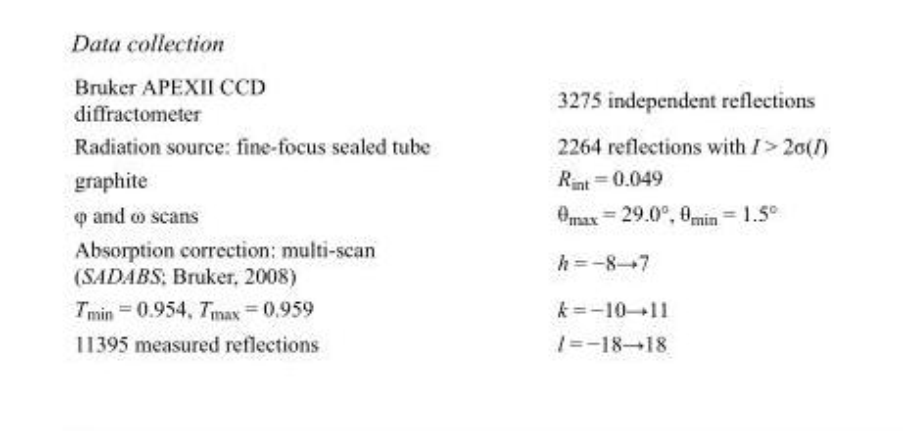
<table><tbody><tr><td>Bruker APEXII CCD diffractometer</td><td>3275 independent reflections</td></tr><tr><td>Radiation source: fine-focus sealed tube</td><td>2264 reflections with I &gt; 2σ(I)</td></tr><tr><td>graphite</td><td>R<sub>int</sub> = 0.049</td></tr><tr><td>φ and ω scans</td><td>θ<sub>max</sub> = 29.0°, θ<sub>min</sub> = 1.5°</td></tr><tr><td>Absorption correction: multi-scan (SADABS; Bruker, 2008)</td><td>h = −8→7</td></tr><tr><td>T<sub>min</sub> = 0.954, T<sub>max</sub> = 0.959</td><td>k = −10→11</td></tr><tr><td>11395 measured reflections</td><td>l = −18→18</td></tr></tbody></table>